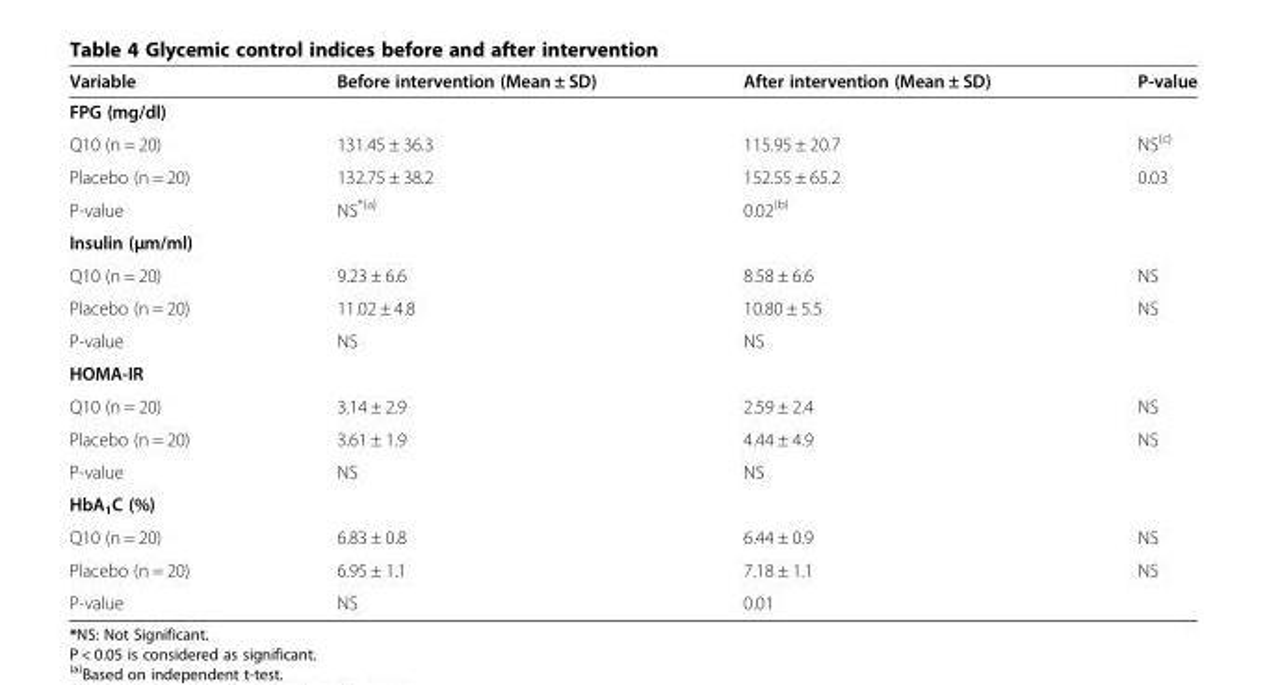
<table><thead><tr><td>Variable</td><td>Before intervention (Mean ± SD)</td><td>After intervention (Mean ± SD)</td><td>P-value</td></tr></thead><tbody><tr><td colspan="4">FPG (mg/dl)</td></tr><tr><td>Q10 (n = 20)</td><td>131.45 ± 36.3</td><td>115.95 ± 20.7</td><td>NS<sup>(c)</sup></td></tr><tr><td>Placebo (n = 20)</td><td>132.75 ± 38.2</td><td>152.55 ± 65.2</td><td>0.03</td></tr><tr><td>P-value</td><td>NS<sup>*(a)</sup></td><td>0.02<sup>(b)</sup></td><td></td></tr><tr><td colspan="4">Insulin (μm/ml)</td></tr><tr><td>Q10 (n = 20)</td><td>9.23 ± 6.6</td><td>8.58 ± 6.6</td><td>NS</td></tr><tr><td>Placebo (n = 20)</td><td>11.02 ± 4.8</td><td>10.80 ± 5.5</td><td>NS</td></tr><tr><td>P-value</td><td>NS</td><td>NS</td><td></td></tr><tr><td colspan="4">HOMA-IR</td></tr><tr><td>Q10 (n = 20)</td><td>3.14 ± 2.9</td><td>2.59 ± 2.4</td><td>NS</td></tr><tr><td>Placebo (n = 20)</td><td>3.61 ± 1.9</td><td>4.44 ± 4.9</td><td>NS</td></tr><tr><td>P-value</td><td>NS</td><td>NS</td><td></td></tr><tr><td colspan="4">HbA<sub>1</sub>C (%)</td></tr><tr><td>Q10 (n = 20)</td><td>6.83 ± 0.8</td><td>6.44 ± 0.9</td><td>NS</td></tr><tr><td>Placebo (n = 20)</td><td>6.95 ± 1.1</td><td>7.18 ± 1.1</td><td>NS</td></tr><tr><td>P-value</td><td>NS</td><td>0.01</td><td></td></tr></tbody></table>